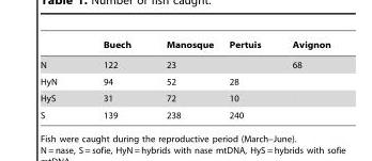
<table><thead><tr><td></td><td>Buech</td><td>Manosque</td><td>Pertuis</td><td>Avignon</td></tr></thead><tbody><tr><td>N</td><td>122</td><td>23</td><td></td><td>68</td></tr><tr><td>HyN</td><td>94</td><td>52</td><td>28</td><td></td></tr><tr><td>HyS</td><td>31</td><td>72</td><td>10</td><td></td></tr><tr><td>S</td><td>139</td><td>238</td><td>240</td><td></td></tr></tbody></table>